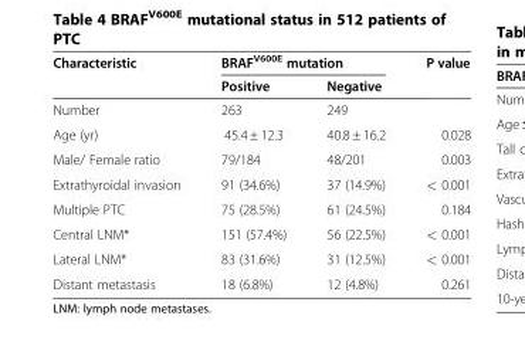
<table><thead><tr><td rowspan="2">Characteristic</td><td colspan="2">BRAF<sup>V600E</sup> mutation</td><td rowspan="2">P value</td></tr><tr><td>Positive</td><td>Negative</td></tr></thead><tbody><tr><td>Number</td><td>263</td><td>249</td><td></td></tr><tr><td>Age (yr)</td><td>45.4 ± 12.3</td><td>40.8 ± 16.2</td><td>0.028</td></tr><tr><td>Male/ Female ratio</td><td>79/184</td><td>48/201</td><td>0.003</td></tr><tr><td>Extrathyroidal invasion</td><td>91 (34.6%)</td><td>37 (14.9%)</td><td>&lt; 0.001</td></tr><tr><td>Multiple PTC</td><td>75 (28.5%)</td><td>61 (24.5%)</td><td>0.184</td></tr><tr><td>Central LNM*</td><td>151 (57.4%)</td><td>56 (22.5%)</td><td>&lt; 0.001</td></tr><tr><td>Lateral LNM*</td><td>83 (31.6%)</td><td>31 (12.5%)</td><td>&lt; 0.001</td></tr><tr><td>Distant metastasis</td><td>18 (6.8%)</td><td>12 (4.8%)</td><td>0.261</td></tr></tbody></table>